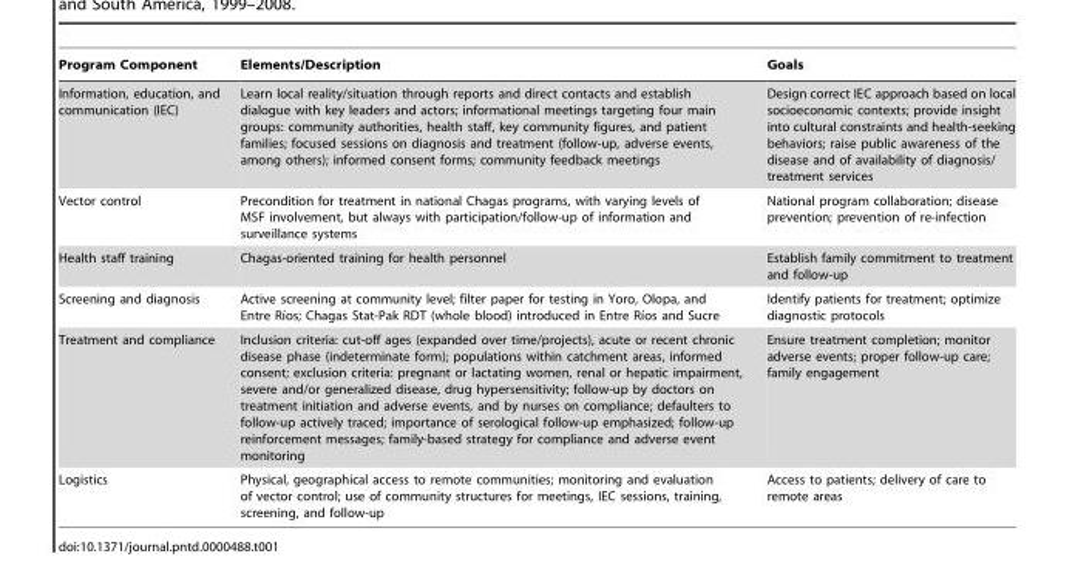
<table><thead><tr><td>Program Component</td><td>Elements/Description</td><td>Goals</td></tr></thead><tbody><tr><td>Information, education, and communication (IEC)</td><td>Learn local reality/situation through reports and direct contacts and establish dialogue with key leaders and actors; informational meetings targeting four main groups: community authorities, health staff, key community figures, and patient families; focused sessions on diagnosis and treatment (follow-up, adverse events, among others); informed consent forms; community feedback meetings</td><td>Design correct IEC approach based on local socioeconomic contexts; provide insight into cultural constraints and health-seeking behaviors; raise public awareness of the disease and of availability of diagnosis/ treatment services</td></tr><tr><td>Vector control</td><td>Precondition for treatment in national Chagas programs, with varying levels of MSF involvement, but always with participation/follow-up of information and surveillance systems</td><td>National program collaboration; disease prevention; prevention of re-infection</td></tr><tr><td>Health staff training</td><td>Chagas-oriented training for health personnel</td><td>Establish family commitment to treatment and follow-up</td></tr><tr><td>Screening and diagnosis</td><td>Active screening at community level; filter paper for testing in Yoro, Olopa, and Entre Rı´os; Chagas Stat-Pak RDT (whole blood) introduced in Entre Rı´os and Sucre</td><td>Identify patients for treatment; optimize diagnostic protocols</td></tr><tr><td>Treatment and compliance</td><td>Inclusion criteria: cut-off ages (expanded over time/projects), acute or recent chronic disease phase (indeterminate form); populations within catchment areas, informed consent; exclusion criteria: pregnant or lactating women, renal or hepatic impairment, severe and/or generalized disease, drug hypersensitivity; follow-up by doctors on treatment initiation and adverse events, and by nurses on compliance; defaulters to follow-up actively traced; importance of serological follow-up emphasized; follow-up reinforcement messages; family-based strategy for compliance and adverse event monitoring</td><td>Ensure treatment completion; monitor adverse events; proper follow-up care; family engagement</td></tr><tr><td>Logistics</td><td>Physical, geographical access to remote communities; monitoring and evaluation of vector control; use of community structures for meetings, IEC sessions, training, screening, and follow-up</td><td>Access to patients; delivery of care to remote areas</td></tr></tbody></table>